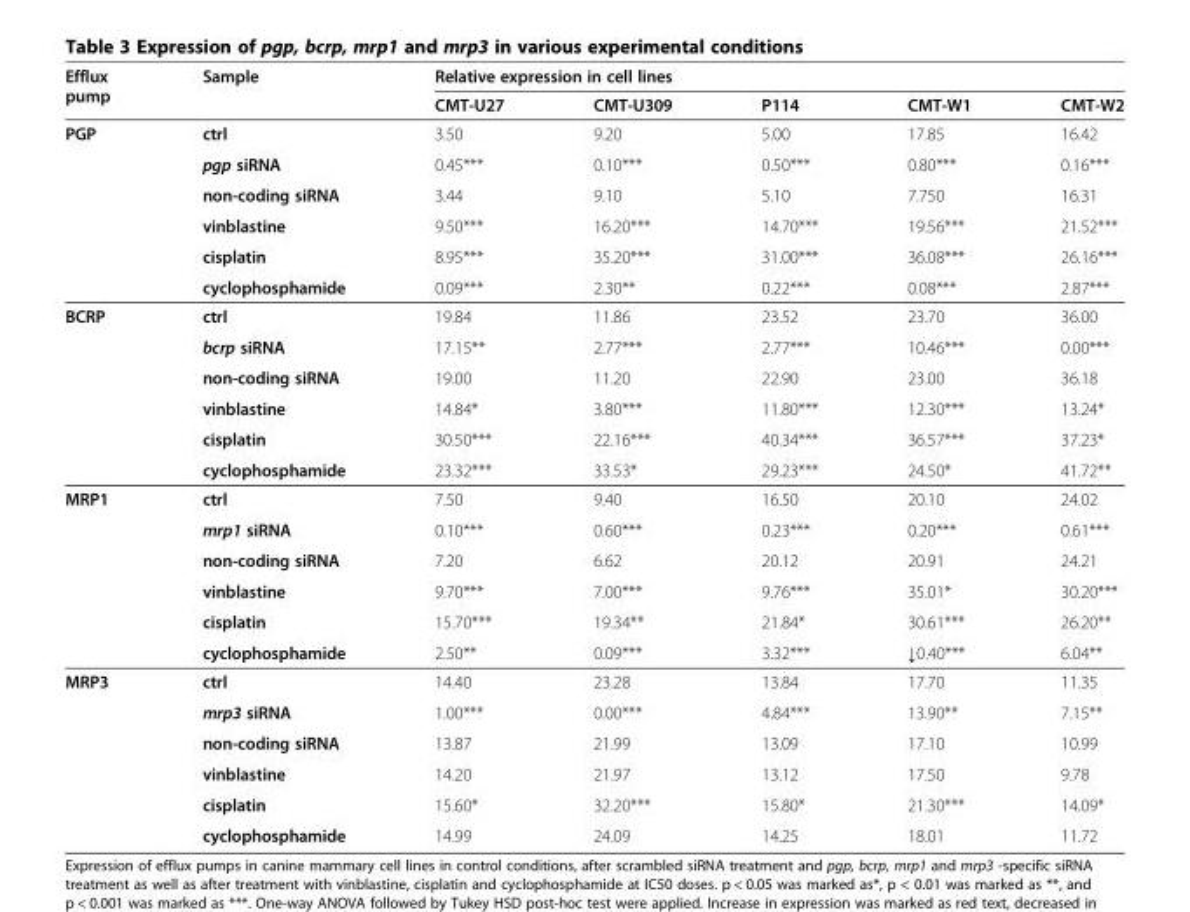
<table><thead><tr><td rowspan="2">Efflux pump</td><td rowspan="2">Sample</td><td colspan="5">Relative expression in cell lines</td></tr><tr><td>CMT-U27</td><td>CMT-U309</td><td>P114</td><td>CMT-W1</td><td>CMT-W2</td></tr></thead><tbody><tr><td rowspan="6">PGP</td><td>ctrl</td><td>3.50</td><td>9.20</td><td>5.00</td><td>17.85</td><td>16.42</td></tr><tr><td>pgp siRNA</td><td>0.45***</td><td>0.10***</td><td>0.50***</td><td>0.80***</td><td>0.16***</td></tr><tr><td>non-coding siRNA</td><td>3.44</td><td>9.10</td><td>5.10</td><td>7.750</td><td>16.31</td></tr><tr><td>vinblastine</td><td>9.50***</td><td>16.20***</td><td>14.70***</td><td>19.56***</td><td>21.52***</td></tr><tr><td>cisplatin</td><td>8.95***</td><td>35.20***</td><td>31.00***</td><td>36.08***</td><td>26.16***</td></tr><tr><td>cyclophosphamide</td><td>0.09***</td><td>2.30**</td><td>0.22***</td><td>0.08***</td><td>2.87***</td></tr><tr><td rowspan="6">BCRP</td><td>ctrl</td><td>19.84</td><td>11.86</td><td>23.52</td><td>23.70</td><td>36.00</td></tr><tr><td>bcrp siRNA</td><td>17.15**</td><td>2.77***</td><td>2.77***</td><td>10.46***</td><td>0.00***</td></tr><tr><td>non-coding siRNA</td><td>19.00</td><td>11.20</td><td>22.90</td><td>23.00</td><td>36.18</td></tr><tr><td>vinblastine</td><td>14.84*</td><td>3.80***</td><td>11.80***</td><td>12.30***</td><td>13.24*</td></tr><tr><td>cisplatin</td><td>30.50***</td><td>22.16***</td><td>40.34***</td><td>36.57***</td><td>37.23*</td></tr><tr><td>cyclophosphamide</td><td>23.32***</td><td>33.53*</td><td>29.23***</td><td>24.50*</td><td>41.72**</td></tr><tr><td rowspan="6">MRP1</td><td>ctrl</td><td>7.50</td><td>9.40</td><td>16.50</td><td>20.10</td><td>24.02</td></tr><tr><td>mrp1 siRNA</td><td>0.10***</td><td>0.60***</td><td>0.23***</td><td>0.20***</td><td>0.61***</td></tr><tr><td>non-coding siRNA</td><td>7.20</td><td>6.62</td><td>20.12</td><td>20.91</td><td>24.21</td></tr><tr><td>vinblastine</td><td>9.70***</td><td>7.00***</td><td>9.76***</td><td>35.01*</td><td>30.20***</td></tr><tr><td>cisplatin</td><td>15.70***</td><td>19.34**</td><td>21.84*</td><td>30.61***</td><td>26.20**</td></tr><tr><td>cyclophosphamide</td><td>2.50**</td><td>0.09***</td><td>3.32***</td><td>↓0.40***</td><td>6.04**</td></tr><tr><td rowspan="6">MRP3</td><td>ctrl</td><td>14.40</td><td>23.28</td><td>13.84</td><td>17.70</td><td>11.35</td></tr><tr><td>mrp3 siRNA</td><td>1.00***</td><td>0.00***</td><td>4.84***</td><td>13.90**</td><td>7.15**</td></tr><tr><td>non-coding siRNA</td><td>13.87</td><td>21.99</td><td>13.09</td><td>17.10</td><td>10.99</td></tr><tr><td>vinblastine</td><td>14.20</td><td>21.97</td><td>13.12</td><td>17.50</td><td>9.78</td></tr><tr><td>cisplatin</td><td>15.60*</td><td>32.20***</td><td>15.80*</td><td>21.30***</td><td>14.09*</td></tr><tr><td>cyclophosphamide</td><td>14.99</td><td>24.09</td><td>14.25</td><td>18.01</td><td>11.72</td></tr></tbody></table>